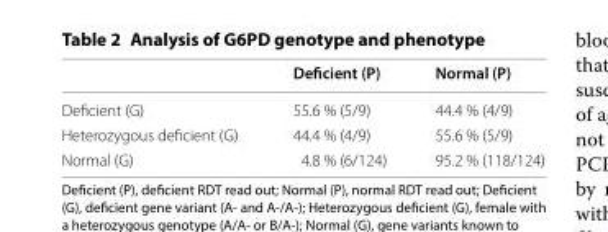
<table><thead><tr><td></td><td>Deficient (P)</td><td>Normal (P)</td></tr></thead><tbody><tr><td>Deficient (G)</td><td>55.6 % (5/9)</td><td>44.4 % (4/9)</td></tr><tr><td>Heterozygous deficient (G)</td><td>44.4 % (4/9)</td><td>55.6 % (5/9)</td></tr><tr><td>Normal (G)</td><td>4.8 % (6/124)</td><td>95.2 % (118/124)</td></tr></tbody></table>